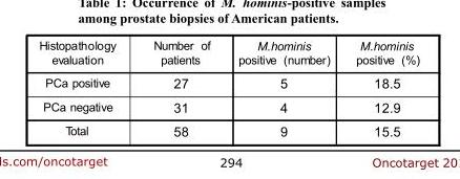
<table><thead><tr><td>Histopathology evaluation</td><td>Number of patients</td><td>M.hominis positive (number)</td><td>M.hominis positive (%)</td></tr></thead><tbody><tr><td>PCa positive</td><td>27</td><td>5</td><td>18.5</td></tr><tr><td>PCa negative</td><td>31</td><td>4</td><td>12.9</td></tr><tr><td>Total</td><td>58</td><td>9</td><td>15.5</td></tr></tbody></table>